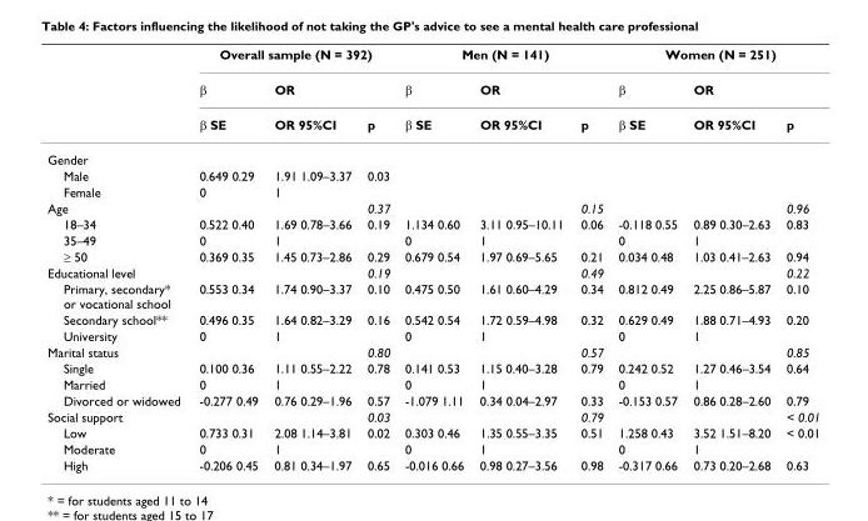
<table><thead><tr><td rowspan="3"></td><td colspan="3">Overall sample (N = 392)</td><td colspan="3">Men (N = 141)</td><td colspan="3">Women (N = 251)</td></tr><tr><td rowspan="2">β β SE</td><td colspan="2">OR</td><td rowspan="2">β β SE</td><td colspan="2">OR</td><td rowspan="2">β β SE</td><td colspan="2">OR</td></tr><tr><td>OR 95%CI</td><td>p</td><td>OR 95%CI</td><td>p</td><td>OR 95%CI</td><td>p</td></tr></thead><tbody><tr><td colspan="10">Gender</td></tr><tr><td>Male</td><td>0.649 0.29</td><td>1.91 1.09–3.37</td><td>0.03</td><td></td><td></td><td></td><td></td><td></td><td></td></tr><tr><td>Female</td><td>0</td><td>1</td><td></td><td></td><td></td><td></td><td></td><td></td><td></td></tr><tr><td>Age</td><td></td><td></td><td>0.37</td><td></td><td></td><td>0.15</td><td></td><td></td><td>0.96</td></tr><tr><td>18–34</td><td>0.522 0.40</td><td>1.69 0.78–3.66</td><td>0.19</td><td>1.134 0.60</td><td>3.11 0.95–10.11</td><td>0.06</td><td>-0.118 0.55</td><td>0.89 0.30–2.63</td><td>0.83</td></tr><tr><td>35–49</td><td>0</td><td>1</td><td></td><td>0</td><td>1</td><td></td><td>0</td><td>1</td><td></td></tr><tr><td>≥ 50</td><td>0.369 0.35</td><td>1.45 0.73–2.86</td><td>0.29</td><td>0.679 0.54</td><td>1.97 0.69–5.65</td><td>0.21</td><td>0.034 0.48</td><td>1.03 0.41–2.63</td><td>0.94</td></tr><tr><td>Educational level</td><td></td><td></td><td>0.19</td><td></td><td></td><td>0.49</td><td></td><td></td><td>0.22</td></tr><tr><td>Primary, secondary* or vocational school</td><td>0.553 0.34</td><td>1.74 0.90–3.37</td><td>0.10</td><td>0.475 0.50</td><td>1.61 0.60–4.29</td><td>0.34</td><td>0.812 0.49</td><td>2.25 0.86–5.87</td><td>0.10</td></tr><tr><td>Secondary school**</td><td>0.496 0.35</td><td>1.64 0.82–3.29</td><td>0.16</td><td>0.542 0.54</td><td>1.72 0.59–4.98</td><td>0.32</td><td>0.629 0.49</td><td>1.88 0.71–4.93</td><td>0.20</td></tr><tr><td>University</td><td>0</td><td>1</td><td></td><td>0</td><td>1</td><td></td><td>0</td><td>1</td><td></td></tr><tr><td>Marital status</td><td></td><td></td><td>0.80</td><td></td><td></td><td>0.57</td><td></td><td></td><td>0.85</td></tr><tr><td>Single</td><td>0.100 0.36</td><td>1.11 0.55–2.22</td><td>0.78</td><td>0.141 0.53</td><td>1.15 0.40–3.28</td><td>0.79</td><td>0.242 0.52</td><td>1.27 0.46–3.54</td><td>0.64</td></tr><tr><td>Married</td><td>0</td><td>1</td><td></td><td>0</td><td>1</td><td></td><td>0</td><td>1</td><td></td></tr><tr><td>Divorced or widowed</td><td>-0.277 0.49</td><td>0.76 0.29–1.96</td><td>0.57</td><td>-1.079 1.11</td><td>0.34 0.04–2.97</td><td>0.33</td><td>-0.153 0.57</td><td>0.86 0.28–2.60</td><td>0.79</td></tr><tr><td>Social support</td><td></td><td></td><td>0.03</td><td></td><td></td><td>0.79</td><td></td><td></td><td>&lt; 0.01</td></tr><tr><td>Low</td><td>0.733 0.31</td><td>2.08 1.14–3.81</td><td>0.02</td><td>0.303 0.46</td><td>1.35 0.55–3.35</td><td>0.51</td><td>1.258 0.43</td><td>3.52 1.51–8.20</td><td>&lt; 0.01</td></tr><tr><td>Moderate</td><td>0</td><td>1</td><td></td><td>0</td><td>1</td><td></td><td>0</td><td>1</td><td></td></tr><tr><td>High</td><td>-0.206 0.45</td><td>0.81 0.34–1.97</td><td>0.65</td><td>-0.016 0.66</td><td>0.98 0.27–3.56</td><td>0.98</td><td>-0.317 0.66</td><td>0.73 0.20–2.68</td><td>0.63</td></tr></tbody></table>